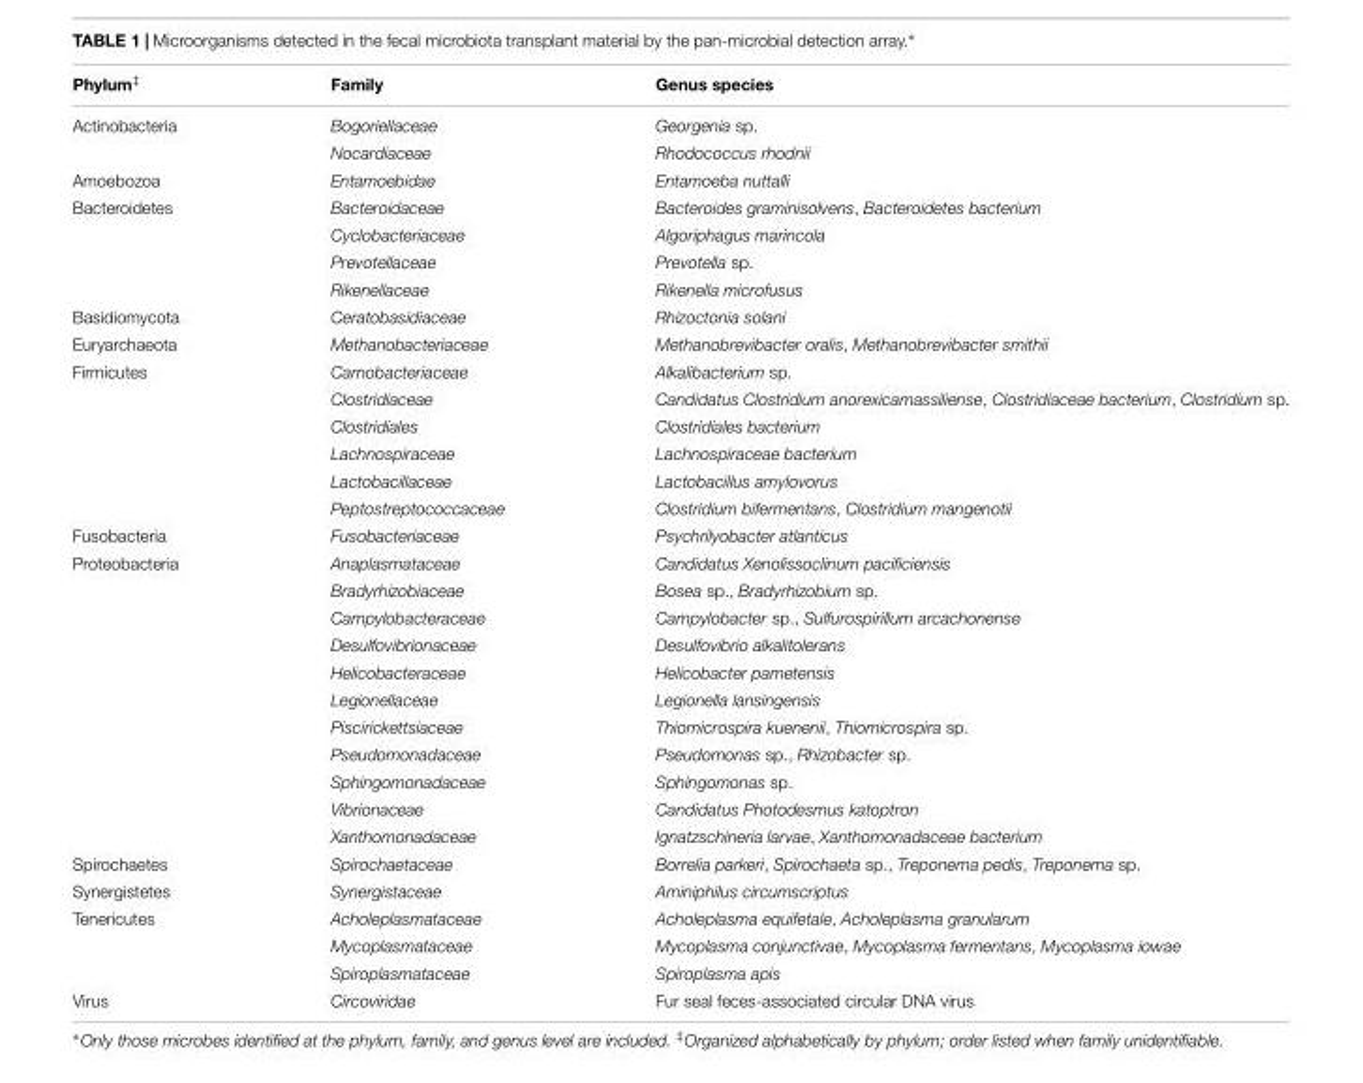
<table><thead><tr><td>Phylum<sup>‡</sup></td><td>Family</td><td>Genus species</td></tr></thead><tbody><tr><td rowspan="2">Actinobacteria</td><td>Bogoriellaceae</td><td>Georgenia sp.</td></tr><tr><td>Nocardiaceae</td><td>Rhodococcus rhodnii</td></tr><tr><td>Amoebozoa</td><td>Entamoebidae</td><td>Entamoeba nuttalli</td></tr><tr><td rowspan="4">Bacteroidetes</td><td>Bacteroidaceae</td><td>Bacteroides graminisolvens, Bacteroidetes bacterium</td></tr><tr><td>Cyclobacteriaceae</td><td>Algoriphagus marincola</td></tr><tr><td>Prevotellaceae</td><td>Prevotella sp.</td></tr><tr><td>Rikenellaceae</td><td>Rikenella microfusus</td></tr><tr><td>Basidiomycota</td><td>Ceratobasidiaceae</td><td>Rhizoctonia solani</td></tr><tr><td>Euryarchaeota</td><td>Methanobacteriaceae</td><td>Methanobrevibacter oralis, Methanobrevibacter smithii</td></tr><tr><td rowspan="6">Firmicutes</td><td>Carnobacteriaceae</td><td>Alkalibacterium sp.</td></tr><tr><td>Clostridiaceae</td><td>Candidatus Clostridium anorexicamassiliense, Clostridiaceae bacterium, Clostridium sp.</td></tr><tr><td>Clostridiales</td><td>Clostridiales bacterium</td></tr><tr><td>Lachnospiraceae</td><td>Lachnospiraceae bacterium</td></tr><tr><td>Lactobacillaceae</td><td>Lactobacillus amylovorus</td></tr><tr><td>Peptostreptococcaceae</td><td>Clostridium bifermentans, Clostridium mangenotii</td></tr><tr><td>Fusobacteria</td><td>Fusobacteriaceae</td><td>Psychrilyobacter atlanticus</td></tr><tr><td rowspan="11">Proteobacteria</td><td>Anaplasmataceae</td><td>Candidatus Xenolissoclinum pacificiensis</td></tr><tr><td>Bradyrhizobiaceae</td><td>Bosea sp., Bradyrhizobium sp.</td></tr><tr><td>Campylobacteraceae</td><td>Campylobacter sp., Sulfurospirillum arcachonense</td></tr><tr><td>Desulfovibrionaceae</td><td>Desulfovibrio alkalitolerans</td></tr><tr><td>Helicobacteraceae</td><td>Helicobacter pametensis</td></tr><tr><td>Legionellaceae</td><td>Legionella lansingensis</td></tr><tr><td>Piscirickettsiaceae</td><td>Thiomicrospira kuenenii, Thiomicrospira sp.</td></tr><tr><td>Pseudomonadaceae</td><td>Pseudomonas sp., Rhizobacter sp.</td></tr><tr><td>Sphingomonadaceae</td><td>Sphingomonas sp.</td></tr><tr><td>Vibrionaceae</td><td>Candidatus Photodesmus katoptron</td></tr><tr><td>Xanthomonadaceae</td><td>Ignatzschineria larvae, Xanthomonadaceae bacterium</td></tr><tr><td>Spirochaetes</td><td>Spirochaetaceae</td><td>Borrelia parkeri, Spirochaeta sp., Treponema pedis, Treponema sp.</td></tr><tr><td>Synergistetes</td><td>Synergistaceae</td><td>Aminiphilus circumscriptus</td></tr><tr><td rowspan="3">Tenericutes</td><td>Acholeplasmataceae</td><td>Acholeplasma equifetale, Acholeplasma granularum</td></tr><tr><td>Mycoplasmataceae</td><td>Mycoplasma conjunctivae, Mycoplasma fermentans, Mycoplasma iowae</td></tr><tr><td>Spiroplasmataceae</td><td>Spiroplasma apis</td></tr><tr><td>Virus</td><td>Circoviridae</td><td>Fur seal feces-associated circular DNA virus</td></tr></tbody></table>